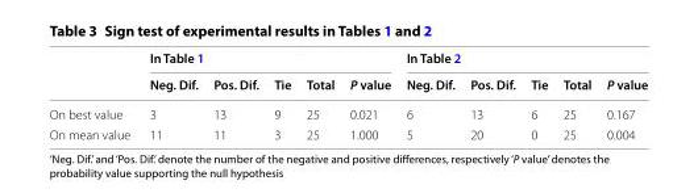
<table><thead><tr><td rowspan="2"></td><td colspan="5">In Table 1</td><td colspan="5">In Table 2</td></tr><tr><td>Neg. Dif.</td><td>Pos. Dif.</td><td>Tie</td><td>Total</td><td>P value</td><td>Neg. Dif.</td><td>Pos. Dif.</td><td>Tie</td><td>Total</td><td>P value</td></tr></thead><tbody><tr><td>On best value</td><td>3</td><td>13</td><td>9</td><td>25</td><td>0.021</td><td>6</td><td>13</td><td>6</td><td>25</td><td>0.167</td></tr><tr><td>On mean value</td><td>11</td><td>11</td><td>3</td><td>25</td><td>1.000</td><td>5</td><td>20</td><td>0</td><td>25</td><td>0.004</td></tr></tbody></table>